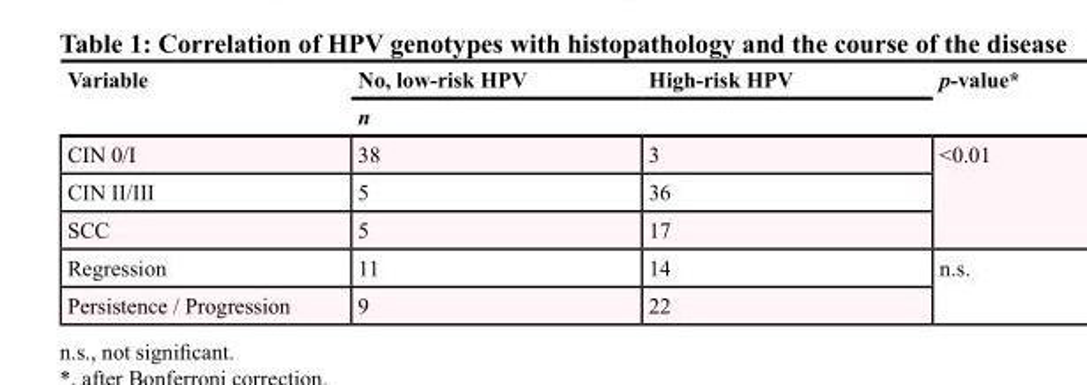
<table><thead><tr><td rowspan="2">Variable</td><td>No, low-risk HPV</td><td>High-risk HPV</td><td rowspan="2">p-value*</td></tr><tr><td colspan="2">n</td></tr></thead><tbody><tr><td>CIN 0/I</td><td>38</td><td>3</td><td rowspan="3">&lt;0.01</td></tr><tr><td>CIN II/III</td><td>5</td><td>36</td></tr><tr><td>SCC</td><td>5</td><td>17</td></tr><tr><td>Regression</td><td>11</td><td>14</td><td rowspan="2">n.s.</td></tr><tr><td>Persistence / Progression</td><td>9</td><td>22</td></tr></tbody></table>